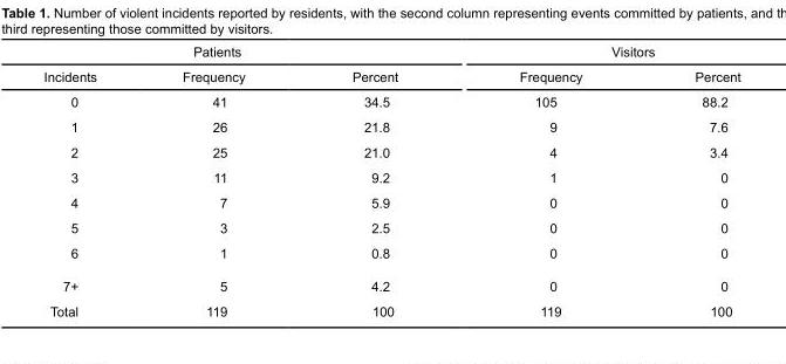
<table><thead><tr><td colspan="3">Patients</td><td colspan="2">Visitors</td></tr><tr><td>Incidents</td><td>Frequency</td><td>Percent</td><td>Frequency</td><td>Percent</td></tr></thead><tbody><tr><td>0</td><td>41</td><td>34.5</td><td>105</td><td>88.2</td></tr><tr><td>1</td><td>26</td><td>21.8</td><td>9</td><td>7.6</td></tr><tr><td>2</td><td>25</td><td>21.0</td><td>4</td><td>3.4</td></tr><tr><td>3</td><td>11</td><td>9.2</td><td>1</td><td>0</td></tr><tr><td>4</td><td>7</td><td>5.9</td><td>0</td><td>0</td></tr><tr><td>5</td><td>3</td><td>2.5</td><td>0</td><td>0</td></tr><tr><td>6</td><td>1</td><td>0.8</td><td>0</td><td>0</td></tr><tr><td>7+</td><td>5</td><td>4.2</td><td>0</td><td>0</td></tr><tr><td>Total</td><td>119</td><td>100</td><td>119</td><td>100</td></tr></tbody></table>